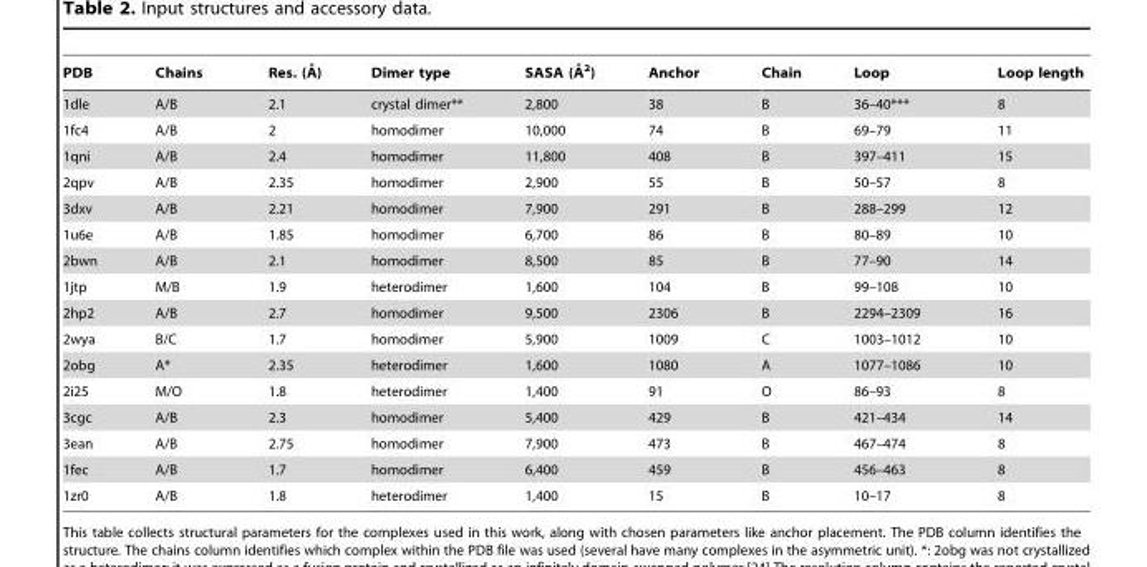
<table><thead><tr><td>PDB</td><td>Chains</td><td>Res. (A˚ )</td><td>Dimer type</td><td>SASA (A˚ 2)</td><td>Anchor</td><td>Chain</td><td>Loop</td><td>Loop length</td></tr></thead><tbody><tr><td>1dle</td><td>A/B</td><td>2.1</td><td>crystal dimer**</td><td>2,800</td><td>38</td><td>B</td><td>36–40***</td><td>8</td></tr><tr><td>1fc4</td><td>A/B</td><td>2</td><td>homodimer</td><td>10,000</td><td>74</td><td>B</td><td>69–79</td><td>11</td></tr><tr><td>1qni</td><td>A/B</td><td>2.4</td><td>homodimer</td><td>11,800</td><td>408</td><td>B</td><td>397–411</td><td>15</td></tr><tr><td>2qpv</td><td>A/B</td><td>2.35</td><td>homodimer</td><td>2,900</td><td>55</td><td>B</td><td>50–57</td><td>8</td></tr><tr><td>3dxv</td><td>A/B</td><td>2.21</td><td>homodimer</td><td>7,900</td><td>291</td><td>B</td><td>288–299</td><td>12</td></tr><tr><td>1u6e</td><td>A/B</td><td>1.85</td><td>homodimer</td><td>6,700</td><td>86</td><td>B</td><td>80–89</td><td>10</td></tr><tr><td>2bwn</td><td>A/B</td><td>2.1</td><td>homodimer</td><td>8,500</td><td>85</td><td>B</td><td>77–90</td><td>14</td></tr><tr><td>1jtp</td><td>M/B</td><td>1.9</td><td>heterodimer</td><td>1,600</td><td>104</td><td>B</td><td>99–108</td><td>10</td></tr><tr><td>2hp2</td><td>A/B</td><td>2.7</td><td>homodimer</td><td>9,500</td><td>2306</td><td>B</td><td>2294–2309</td><td>16</td></tr><tr><td>2wya</td><td>B/C</td><td>1.7</td><td>homodimer</td><td>5,900</td><td>1009</td><td>C</td><td>1003–1012</td><td>10</td></tr><tr><td>2obg</td><td>A*</td><td>2.35</td><td>heterodimer</td><td>1,600</td><td>1080</td><td>A</td><td>1077–1086</td><td>10</td></tr><tr><td>2i25</td><td>M/O</td><td>1.8</td><td>heterodimer</td><td>1,400</td><td>91</td><td>O</td><td>86–93</td><td>8</td></tr><tr><td>3cgc</td><td>A/B</td><td>2.3</td><td>homodimer</td><td>5,400</td><td>429</td><td>B</td><td>421–434</td><td>14</td></tr><tr><td>3ean</td><td>A/B</td><td>2.75</td><td>homodimer</td><td>7,900</td><td>473</td><td>B</td><td>467–474</td><td>8</td></tr><tr><td>1fec</td><td>A/B</td><td>1.7</td><td>homodimer</td><td>6,400</td><td>459</td><td>B</td><td>456–463</td><td>8</td></tr><tr><td>1zr0</td><td>A/B</td><td>1.8</td><td>heterodimer</td><td>1,400</td><td>15</td><td>B</td><td>10–17</td><td>8</td></tr></tbody></table>